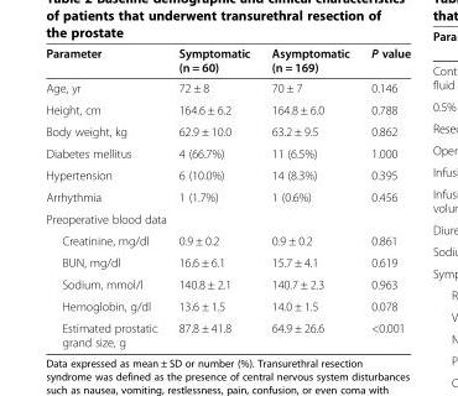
<table><thead><tr><td>Parameter</td><td>Symptomatic (n = 60)</td><td>Asymptomatic (n = 169)</td><td>P value</td></tr></thead><tbody><tr><td>Age, yr</td><td>72 ± 8</td><td>70 ± 7</td><td>0.146</td></tr><tr><td>Height, cm</td><td>164.6 ± 6.2</td><td>164.8 ± 6.0</td><td>0.788</td></tr><tr><td>Body weight, kg</td><td>62.9 ± 10.0</td><td>63.2 ± 9.5</td><td>0.862</td></tr><tr><td>Diabetes mellitus</td><td>4 (66.7%)</td><td>11 (6.5%)</td><td>1.000</td></tr><tr><td>Hypertension</td><td>6 (10.0%)</td><td>14 (8.3%)</td><td>0.395</td></tr><tr><td>Arrhythmia</td><td>1 (1.7%)</td><td>1 (0.6%)</td><td>0.456</td></tr><tr><td colspan="4">Preoperative blood data</td></tr><tr><td>Creatinine, mg/dl</td><td>0.9 ± 0.2</td><td>0.9 ± 0.2</td><td>0.861</td></tr><tr><td>BUN, mg/dl</td><td>16.6 ± 6.1</td><td>15.7 ± 4.1</td><td>0.619</td></tr><tr><td>Sodium, mmol/l</td><td>140.8 ± 2.1</td><td>140.7 ± 2.3</td><td>0.963</td></tr><tr><td>Hemoglobin, g/dl</td><td>13.6 ± 1.5</td><td>14.0 ± 1.5</td><td>0.078</td></tr><tr><td>Estimated prostatic grand size, g</td><td>87.8 ± 41.8</td><td>64.9 ± 26.6</td><td>&lt;0.001</td></tr></tbody></table>